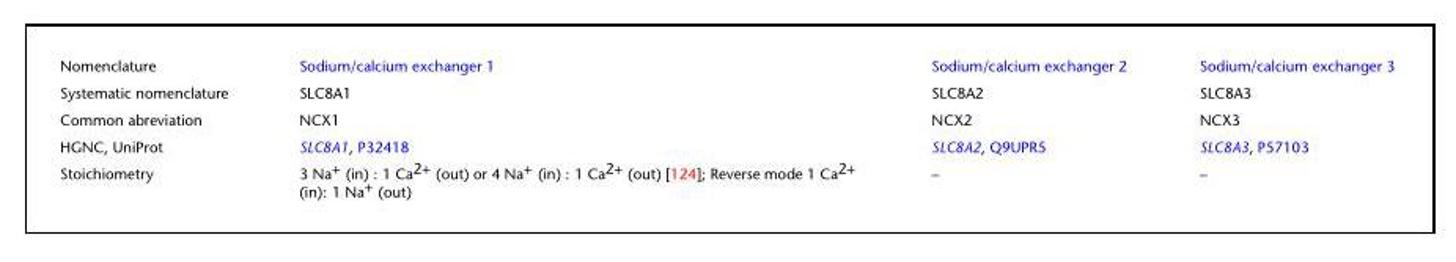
<table><tbody><tr><td>Nomenclature</td><td>Sodium/calcium exchanger 1</td><td>Sodium/calcium exchanger 2</td><td>Sodium/calcium exchanger 3</td></tr><tr><td>Systematic nomenclature</td><td>SLC8A1</td><td>SLC8A2</td><td>SLC8A3</td></tr><tr><td>Common abreviation</td><td>NCX1</td><td>NCX2</td><td>NCX3</td></tr><tr><td>HGNC, UniProt</td><td>SLC8A1, P32418</td><td>SLC8A2, Q9UPR5</td><td>SLC8A3, P57103</td></tr><tr><td>Stoichiometry</td><td>3 Na<sup>+</sup> (in) : 1 Ca<sup>2+</sup> (out) or 4 Na<sup>+</sup> (in) : 1 Ca<sup>2+</sup> (out) [124]; Reverse mode 1 Ca<sup>2+</sup> (in): 1 Na<sup>+</sup> (out)</td><td>–</td><td>–</td></tr></tbody></table>